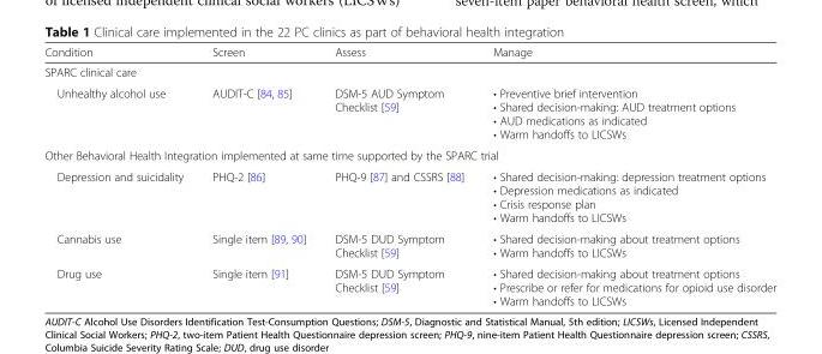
<table><thead><tr><td>Condition</td><td>Screen</td><td>Assess</td><td>Manage</td></tr></thead><tbody><tr><td colspan="4">SPARC clinical care</td></tr><tr><td>Unhealthy alcohol use</td><td>AUDIT-C [84, 85]</td><td>DSM-5 AUD Symptom Checklist [59]</td><td>• Preventive brief intervention • Shared decision-making: AUD treatment options • AUD medications as indicated • Warm handoffs to LICSWs</td></tr><tr><td colspan="4">Other Behavioral Health Integration implemented at same time supported by the SPARC trial</td></tr><tr><td>Depression and suicidality</td><td>PHQ-2 [86]</td><td>PHQ-9 [87] and CSSRS [88]</td><td>• Shared decision-making: depression treatment options • Depression medications as indicated • Crisis response plan • Warm handoffs to LICSWs</td></tr><tr><td>Cannabis use</td><td>Single item [89, 90]</td><td>DSM-5 DUD Symptom Checklist [59]</td><td>• Shared decision-making about treatment options • Warm handoffs to LICSWs</td></tr><tr><td>Drug use</td><td>Single item [91]</td><td>DSM-5 DUD Symptom Checklist [59]</td><td>• Shared decision-making about treatment options • Prescribe or refer for medications for opioid use disorder • Warm handoffs to LICSWs</td></tr></tbody></table>